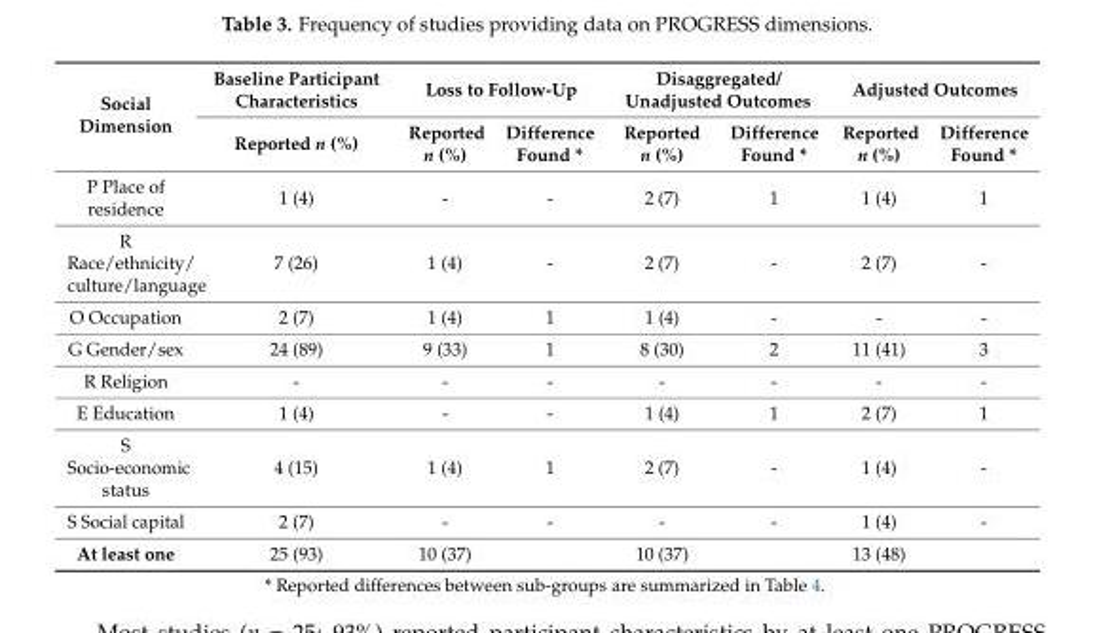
<table><thead><tr><td rowspan="2">Social Dimension</td><td rowspan="2">Baseline Participant Characteristics Reported n (%)</td><td colspan="2">Loss to Follow-Up</td><td colspan="2">Disaggregated/ Unadjusted Outcomes</td><td colspan="2">Adjusted Outcomes</td></tr><tr><td>Reported n (%)</td><td>Difference Found *</td><td>Reported n (%)</td><td>Difference Found *</td><td>Reported n (%)</td><td>Difference Found *</td></tr></thead><tbody><tr><td>P Place of residence</td><td>1 (4)</td><td>-</td><td>-</td><td>2 (7)</td><td>1</td><td>1 (4)</td><td>1</td></tr><tr><td>R Race/ethnicity/ culture/language</td><td>7 (26)</td><td>1 (4)</td><td>-</td><td>2 (7)</td><td>-</td><td>2 (7)</td><td>-</td></tr><tr><td>O Occupation</td><td>2 (7)</td><td>1 (4)</td><td>1</td><td>1 (4)</td><td>-</td><td>-</td><td>-</td></tr><tr><td>G Gender/sex</td><td>24 (89)</td><td>9 (33)</td><td>1</td><td>8 (30)</td><td>2</td><td>11 (41)</td><td>3</td></tr><tr><td>R Religion</td><td>-</td><td>-</td><td>-</td><td>-</td><td>-</td><td>-</td><td>-</td></tr><tr><td>E Education</td><td>1 (4)</td><td>-</td><td>-</td><td>1 (4)</td><td>1</td><td>2 (7)</td><td>1</td></tr><tr><td>S Socio-economic status</td><td>4 (15)</td><td>1 (4)</td><td>1</td><td>2 (7)</td><td>-</td><td>1 (4)</td><td>-</td></tr><tr><td>S Social capital</td><td>2 (7)</td><td>-</td><td>-</td><td>-</td><td>-</td><td>1 (4)</td><td>-</td></tr><tr><td>At least one</td><td>25 (93)</td><td>10 (37)</td><td></td><td>10 (37)</td><td></td><td>13 (48)</td><td></td></tr></tbody></table>